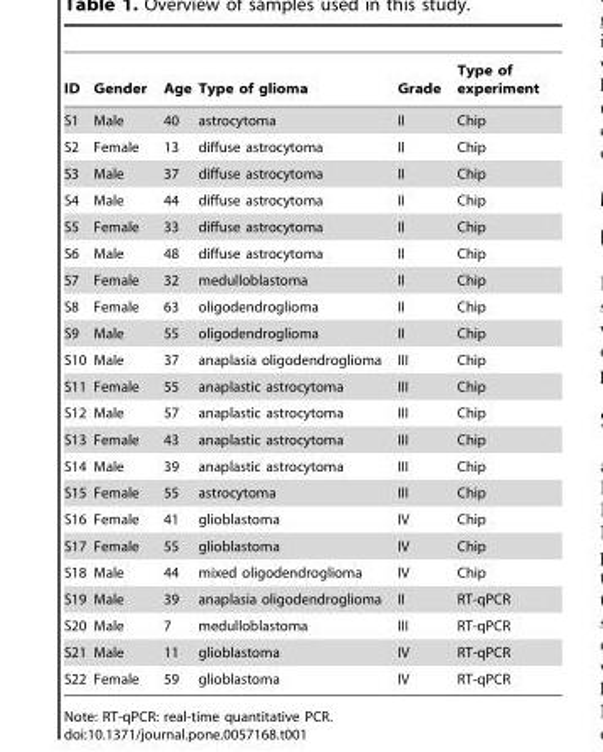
<table><thead><tr><td>ID</td><td>Gender</td><td>Age</td><td>Type of glioma</td><td>Grade</td><td>Type of experiment</td></tr></thead><tbody><tr><td>S1</td><td>Male</td><td>40</td><td>astrocytoma</td><td>II</td><td>Chip</td></tr><tr><td>S2</td><td>Female</td><td>13</td><td>diffuse astrocytoma</td><td>II</td><td>Chip</td></tr><tr><td>S3</td><td>Male</td><td>37</td><td>diffuse astrocytoma</td><td>II</td><td>Chip</td></tr><tr><td>S4</td><td>Male</td><td>44</td><td>diffuse astrocytoma</td><td>II</td><td>Chip</td></tr><tr><td>S5</td><td>Female</td><td>33</td><td>diffuse astrocytoma</td><td>II</td><td>Chip</td></tr><tr><td>S6</td><td>Male</td><td>48</td><td>diffuse astrocytoma</td><td>II</td><td>Chip</td></tr><tr><td>S7</td><td>Female</td><td>32</td><td>medulloblastoma</td><td>II</td><td>Chip</td></tr><tr><td>S8</td><td>Female</td><td>63</td><td>oligodendroglioma</td><td>II</td><td>Chip</td></tr><tr><td>S9</td><td>Male</td><td>55</td><td>oligodendroglioma</td><td>II</td><td>Chip</td></tr><tr><td>S10</td><td>Male</td><td>37</td><td>anaplasia oligodendroglioma</td><td>III</td><td>Chip</td></tr><tr><td>S11</td><td>Female</td><td>55</td><td>anaplastic astrocytoma</td><td>III</td><td>Chip</td></tr><tr><td>S12</td><td>Male</td><td>57</td><td>anaplastic astrocytoma</td><td>III</td><td>Chip</td></tr><tr><td>S13</td><td>Female</td><td>43</td><td>anaplastic astrocytoma</td><td>III</td><td>Chip</td></tr><tr><td>S14</td><td>Male</td><td>39</td><td>anaplastic astrocytoma</td><td>III</td><td>Chip</td></tr><tr><td>S15</td><td>Female</td><td>55</td><td>astrocytoma</td><td>III</td><td>Chip</td></tr><tr><td>S16</td><td>Female</td><td>41</td><td>glioblastoma</td><td>IV</td><td>Chip</td></tr><tr><td>S17</td><td>Female</td><td>55</td><td>glioblastoma</td><td>IV</td><td>Chip</td></tr><tr><td>S18</td><td>Male</td><td>44</td><td>mixed oligodendroglioma</td><td>IV</td><td>Chip</td></tr><tr><td>S19</td><td>Male</td><td>39</td><td>anaplasia oligodendroglioma</td><td>II</td><td>RT-qPCR</td></tr><tr><td>S20</td><td>Male</td><td>7</td><td>medulloblastoma</td><td>III</td><td>RT-qPCR</td></tr><tr><td>S21</td><td>Male</td><td>11</td><td>glioblastoma</td><td>IV</td><td>RT-qPCR</td></tr><tr><td>S22</td><td>Female</td><td>59</td><td>glioblastoma</td><td>IV</td><td>RT-qPCR</td></tr></tbody></table>